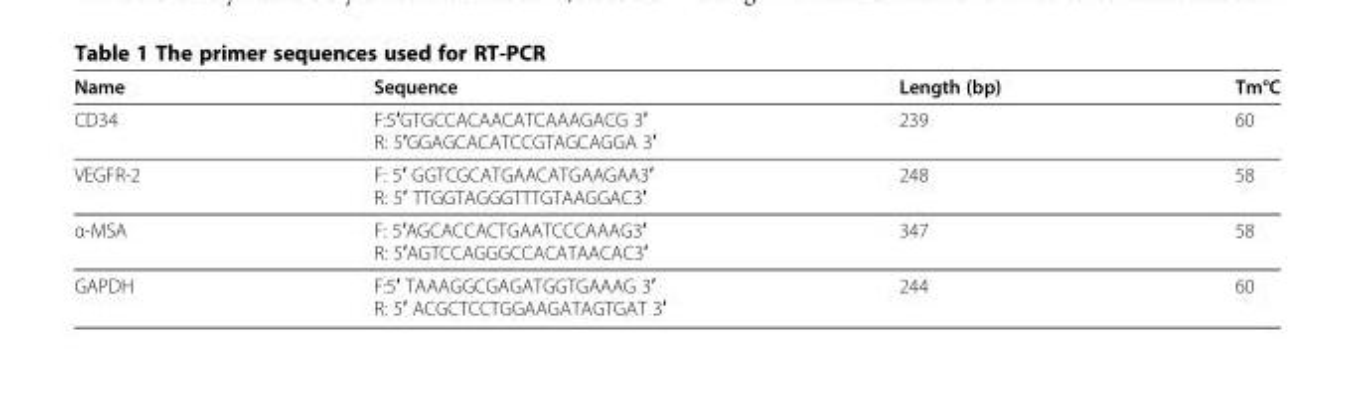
<table><thead><tr><td>Name</td><td>Sequence</td><td>Length (bp)</td><td>Tm°C</td></tr></thead><tbody><tr><td>CD34</td><td>F:5′GTGCCACAACATCAAAGACG 3′ R: 5′GGAGCACATCCGTAGCAGGA 3′</td><td>239</td><td>60</td></tr><tr><td>VEGFR-2</td><td>F: 5′ GGTCGCATGAACATGAAGAA3′ R: 5′ TTGGTAGGGTTTGTAAGGAC3′</td><td>248</td><td>58</td></tr><tr><td>α-MSA</td><td>F: 5′AGCACCACTGAATCCCAAAG3′ R: 5′AGTCCAGGGCCACATAACAC3′</td><td>347</td><td>58</td></tr><tr><td>GAPDH</td><td>F:5′ TAAAGGCGAGATGGTGAAAG 3′ R: 5′ ACGCTCCTGGAAGATAGTGAT 3′</td><td>244</td><td>60</td></tr></tbody></table>